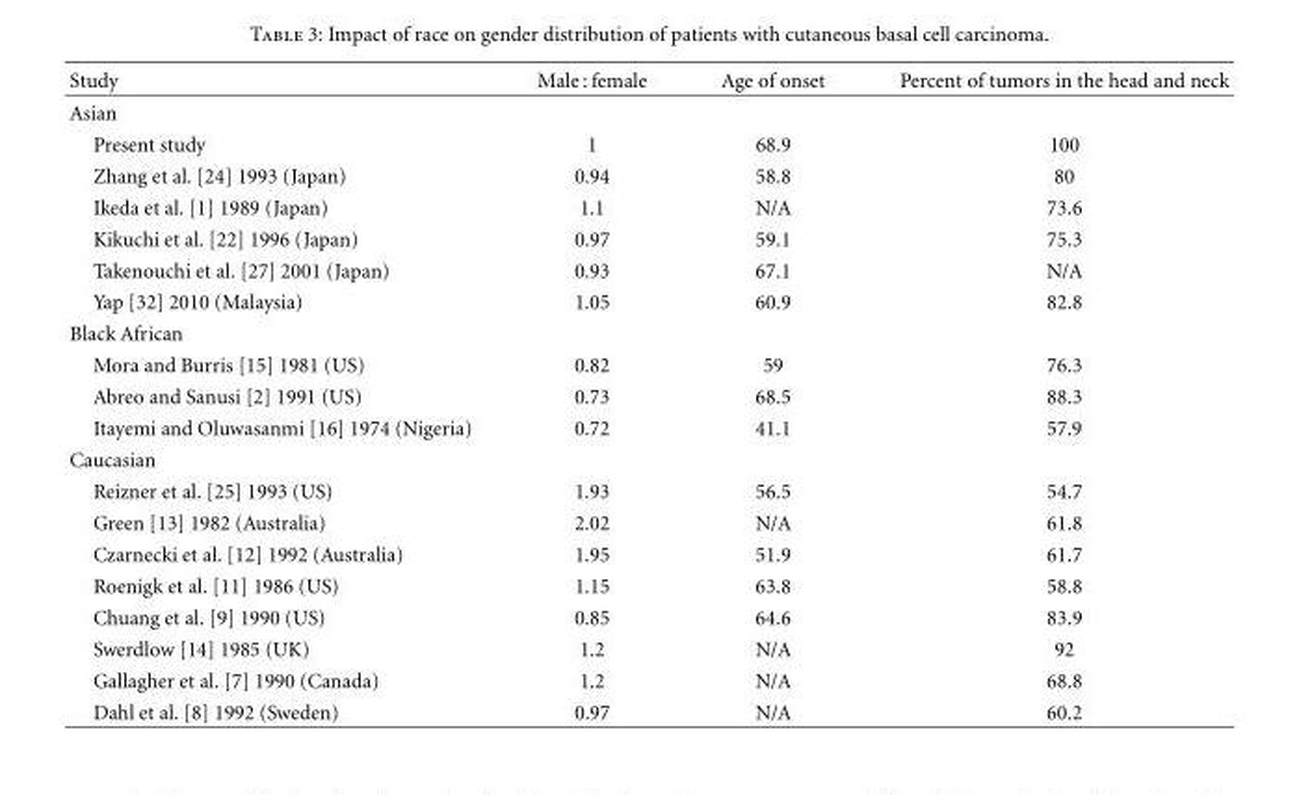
<table><thead><tr><td>Study</td><td>Male : female</td><td>Age of onset</td><td>Percent of tumors in the head and neck</td></tr></thead><tbody><tr><td colspan="4">Asian</td></tr><tr><td>Present study</td><td>1</td><td>68.9</td><td>100</td></tr><tr><td>Zhang et al. [24] 1993 (Japan)</td><td>0.94</td><td>58.8</td><td>80</td></tr><tr><td>Ikeda et al. [1] 1989 (Japan)</td><td>1.1</td><td>N/A</td><td>73.6</td></tr><tr><td>Kikuchi et al. [22] 1996 (Japan)</td><td>0.97</td><td>59.1</td><td>75.3</td></tr><tr><td>Takenouchi et al. [27] 2001 (Japan)</td><td>0.93</td><td>67.1</td><td>N/A</td></tr><tr><td>Yap [32] 2010 (Malaysia)</td><td>1.05</td><td>60.9</td><td>82.8</td></tr><tr><td colspan="4">Black African</td></tr><tr><td>Mora and Burris [15] 1981 (US)</td><td>0.82</td><td>59</td><td>76.3</td></tr><tr><td>Abreo and Sanusi [2] 1991 (US)</td><td>0.73</td><td>68.5</td><td>88.3</td></tr><tr><td>Itayemi and Oluwasanmi [16] 1974 (Nigeria)</td><td>0.72</td><td>41.1</td><td>57.9</td></tr><tr><td colspan="4">Caucasian</td></tr><tr><td>Reizner et al. [25] 1993 (US)</td><td>1.93</td><td>56.5</td><td>54.7</td></tr><tr><td>Green [13] 1982 (Australia)</td><td>2.02</td><td>N/A</td><td>61.8</td></tr><tr><td>Czarnecki et al. [12] 1992 (Australia)</td><td>1.95</td><td>51.9</td><td>61.7</td></tr><tr><td>Roenigk et al. [11] 1986 (US)</td><td>1.15</td><td>63.8</td><td>58.8</td></tr><tr><td>Chuang et al. [9] 1990 (US)</td><td>0.85</td><td>64.6</td><td>83.9</td></tr><tr><td>Swerdlow [14] 1985 (UK)</td><td>1.2</td><td>N/A</td><td>92</td></tr><tr><td>Gallagher et al. [7] 1990 (Canada)</td><td>1.2</td><td>N/A</td><td>68.8</td></tr><tr><td>Dahl et al. [8] 1992 (Sweden)</td><td>0.97</td><td>N/A</td><td>60.2</td></tr></tbody></table>